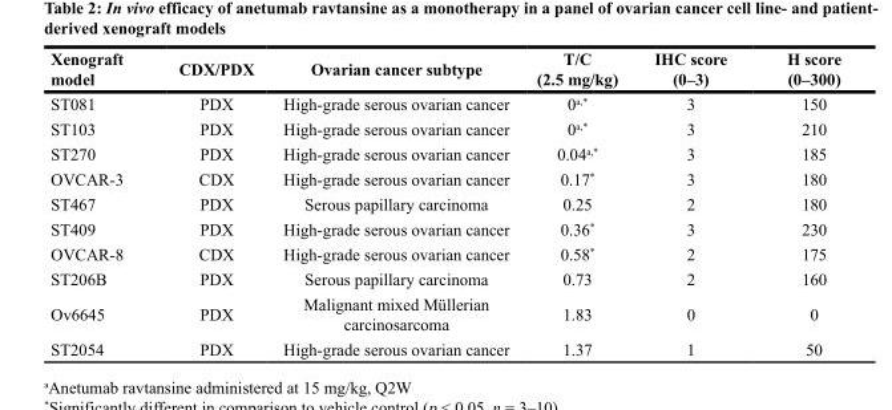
<table><thead><tr><td>Xenograft model</td><td>CDX/PDX</td><td>Ovarian cancer subtype</td><td>T/C (2.5 mg/kg)</td><td>IHC score (0–3)</td><td>H score (0–300)</td></tr></thead><tbody><tr><td>ST081</td><td>PDX</td><td>High-grade serous ovarian cancer</td><td>0<sup>a,*</sup></td><td>3</td><td>150</td></tr><tr><td>ST103</td><td>PDX</td><td>High-grade serous ovarian cancer</td><td>0<sup>a,*</sup></td><td>3</td><td>210</td></tr><tr><td>ST270</td><td>PDX</td><td>High-grade serous ovarian cancer</td><td>0.04<sup>a,*</sup></td><td>3</td><td>185</td></tr><tr><td>OVCAR-3</td><td>CDX</td><td>High-grade serous ovarian cancer</td><td>0.17*</td><td>3</td><td>180</td></tr><tr><td>ST467</td><td>PDX</td><td>Serous papillary carcinoma</td><td>0.25</td><td>2</td><td>180</td></tr><tr><td>ST409</td><td>PDX</td><td>High-grade serous ovarian cancer</td><td>0.36*</td><td>3</td><td>230</td></tr><tr><td>OVCAR-8</td><td>CDX</td><td>High-grade serous ovarian cancer</td><td>0.58*</td><td>2</td><td>175</td></tr><tr><td>ST206B</td><td>PDX</td><td>Serous papillary carcinoma</td><td>0.73</td><td>2</td><td>160</td></tr><tr><td>Ov6645</td><td>PDX</td><td>Malignant mixed Müllerian carcinosarcoma</td><td>1.83</td><td>0</td><td>0</td></tr><tr><td>ST2054</td><td>PDX</td><td>High-grade serous ovarian cancer</td><td>1.37</td><td>1</td><td>50</td></tr></tbody></table>